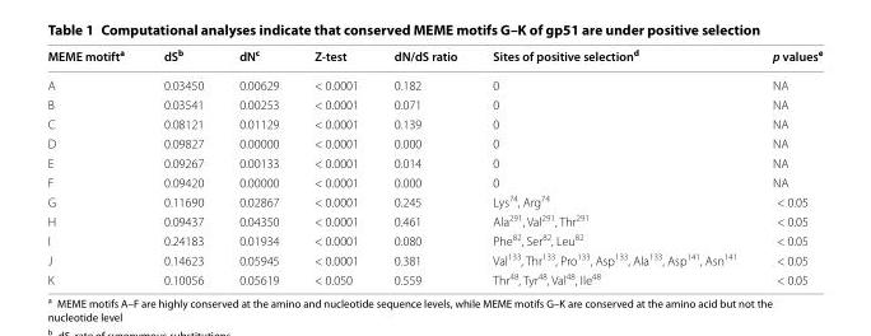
<table><thead><tr><td>MEME motift<sup>a</sup></td><td>dS<sup>b</sup></td><td>dN<sup>c</sup></td><td>Z-test</td><td>dN/dS ratio</td><td>Sites of positive selection<sup>d</sup></td><td>p values<sup>e</sup></td></tr></thead><tbody><tr><td>A</td><td>0.03450</td><td>0.00629</td><td>&lt; 0.0001</td><td>0.182</td><td>0</td><td>NA</td></tr><tr><td>B</td><td>0.03541</td><td>0.00253</td><td>&lt; 0.0001</td><td>0.071</td><td>0</td><td>NA</td></tr><tr><td>C</td><td>0.08121</td><td>0.01129</td><td>&lt; 0.0001</td><td>0.139</td><td>0</td><td>NA</td></tr><tr><td>D</td><td>0.09827</td><td>0.00000</td><td>&lt; 0.0001</td><td>0.000</td><td>0</td><td>NA</td></tr><tr><td>E</td><td>0.09267</td><td>0.00133</td><td>&lt; 0.0001</td><td>0.014</td><td>0</td><td>NA</td></tr><tr><td>F</td><td>0.09420</td><td>0.00000</td><td>&lt; 0.0001</td><td>0.000</td><td>0</td><td>NA</td></tr><tr><td>G</td><td>0.11690</td><td>0.02867</td><td>&lt; 0.0001</td><td>0.245</td><td>Lys<sup>74</sup>, Arg<sup>74</sup></td><td>&lt; 0.05</td></tr><tr><td>H</td><td>0.09437</td><td>0.04350</td><td>&lt; 0.0001</td><td>0.461</td><td>Ala<sup>291</sup>, Val<sup>291</sup>, Thr<sup>291</sup></td><td>&lt; 0.05</td></tr><tr><td>I</td><td>0.24183</td><td>0.01934</td><td>&lt; 0.0001</td><td>0.080</td><td>Phe<sup>82</sup>, Ser<sup>82</sup>, Leu<sup>82</sup></td><td>&lt; 0.05</td></tr><tr><td>J</td><td>0.14623</td><td>0.05945</td><td>&lt; 0.0001</td><td>0.381</td><td>Val<sup>133</sup>, Thr<sup>133</sup>, Pro<sup>133</sup>, Asp<sup>133</sup>, Ala<sup>133</sup>, Asp<sup>141</sup>, Asn<sup>141</sup></td><td>&lt; 0.05</td></tr><tr><td>K</td><td>0.10056</td><td>0.05619</td><td>&lt; 0.050</td><td>0.559</td><td>Thr<sup>48</sup>, Tyr<sup>48</sup>, Val<sup>48</sup>, Ile<sup>48</sup></td><td>&lt; 0.05</td></tr></tbody></table>